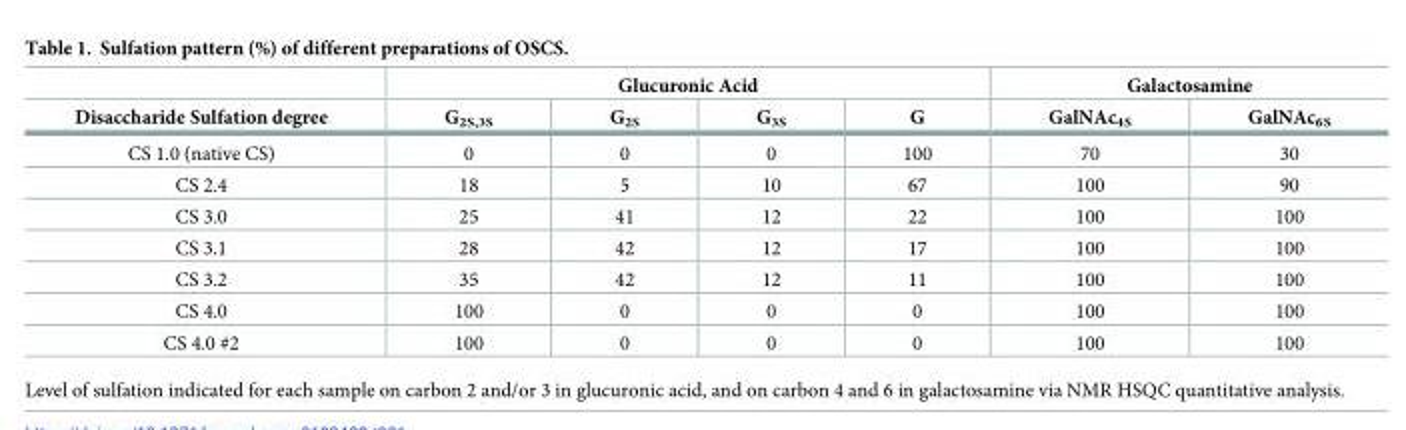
<table><thead><tr><td rowspan="2">Disaccharide Sulfation degree</td><td colspan="4">Glucuronic Acid</td><td colspan="2">Galactosamine</td></tr><tr><td>G<sub>2S,3S</sub></td><td>G<sub>2S</sub></td><td>G<sub>3S</sub></td><td>G</td><td>GalNAc<sub>4S</sub></td><td>GalNAc<sub>6S</sub></td></tr></thead><tbody><tr><td>CS 1.0 (native CS)</td><td>0</td><td>0</td><td>0</td><td>100</td><td>70</td><td>30</td></tr><tr><td>CS 2.4</td><td>18</td><td>5</td><td>10</td><td>67</td><td>100</td><td>90</td></tr><tr><td>CS 3.0</td><td>25</td><td>41</td><td>12</td><td>22</td><td>100</td><td>100</td></tr><tr><td>CS 3.1</td><td>28</td><td>42</td><td>12</td><td>17</td><td>100</td><td>100</td></tr><tr><td>CS 3.2</td><td>35</td><td>42</td><td>12</td><td>11</td><td>100</td><td>100</td></tr><tr><td>CS 4.0</td><td>100</td><td>0</td><td>0</td><td>0</td><td>100</td><td>100</td></tr><tr><td>CS 4.0 #2</td><td>100</td><td>0</td><td>0</td><td>0</td><td>100</td><td>100</td></tr></tbody></table>